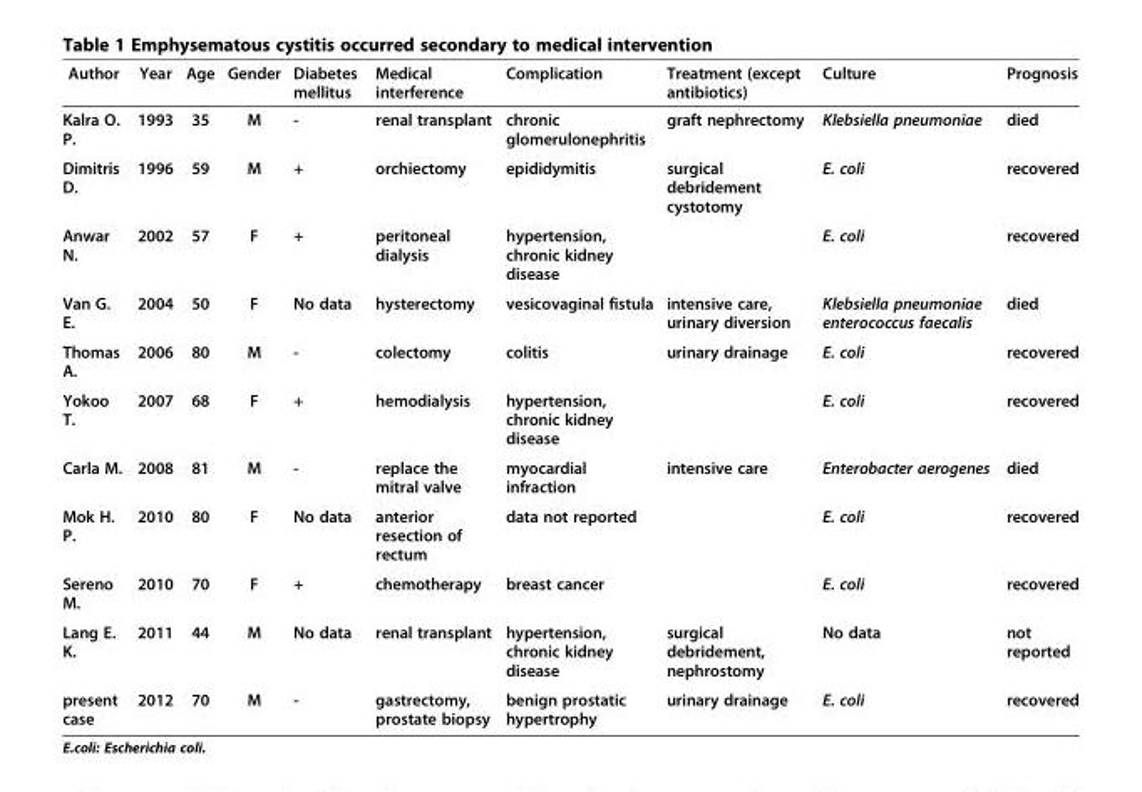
<table><thead><tr><td>Author</td><td>Year</td><td>Age</td><td>Gender</td><td>Diabetes mellitus</td><td>Medical interference</td><td>Complication</td><td>Treatment (except antibiotics)</td><td>Culture</td><td>Prognosis</td></tr></thead><tbody><tr><td>Kalra O. P.</td><td>1993</td><td>35</td><td>M</td><td>-</td><td>renal transplant</td><td>chronic glomerulonephritis</td><td>graft nephrectomy</td><td>Klebsiella pneumoniae</td><td>died</td></tr><tr><td>Dimitris D.</td><td>1996</td><td>59</td><td>M</td><td>+</td><td>orchiectomy</td><td>epididymitis</td><td>surgical debridement cystotomy</td><td>E. coli</td><td>recovered</td></tr><tr><td>Anwar N.</td><td>2002</td><td>57</td><td>F</td><td>+</td><td>peritoneal dialysis</td><td>hypertension, chronic kidney disease</td><td></td><td>E. coli</td><td>recovered</td></tr><tr><td>Van G. E.</td><td>2004</td><td>50</td><td>F</td><td>No data</td><td>hysterectomy</td><td>vesicovaginal fistula</td><td>intensive care, urinary diversion</td><td>Klebsiella pneumoniae enterococcus faecalis</td><td>died</td></tr><tr><td>Thomas A.</td><td>2006</td><td>80</td><td>M</td><td>-</td><td>colectomy</td><td>colitis</td><td>urinary drainage</td><td>E. coli</td><td>recovered</td></tr><tr><td>Yokoo T.</td><td>2007</td><td>68</td><td>F</td><td>+</td><td>hemodialysis</td><td>hypertension, chronic kidney disease</td><td></td><td>E. coli</td><td>recovered</td></tr><tr><td>Carla M.</td><td>2008</td><td>81</td><td>M</td><td>-</td><td>replace the mitral valve</td><td>myocardial infraction</td><td>intensive care</td><td>Enterobacter aerogenes</td><td>died</td></tr><tr><td>Mok H. P.</td><td>2010</td><td>80</td><td>F</td><td>No data</td><td>anterior resection of rectum</td><td>data not reported</td><td></td><td>E. coli</td><td>recovered</td></tr><tr><td>Sereno M.</td><td>2010</td><td>70</td><td>F</td><td>+</td><td>chemotherapy</td><td>breast cancer</td><td></td><td>E. coli</td><td>recovered</td></tr><tr><td>Lang E. K.</td><td>2011</td><td>44</td><td>M</td><td>No data</td><td>renal transplant</td><td>hypertension, chronic kidney disease</td><td>surgical debridement, nephrostomy</td><td>No data</td><td>not reported</td></tr><tr><td>present case</td><td>2012</td><td>70</td><td>M</td><td>-</td><td>gastrectomy, prostate biopsy</td><td>benign prostatic hypertrophy</td><td>urinary drainage</td><td>E. coli</td><td>recovered</td></tr></tbody></table>